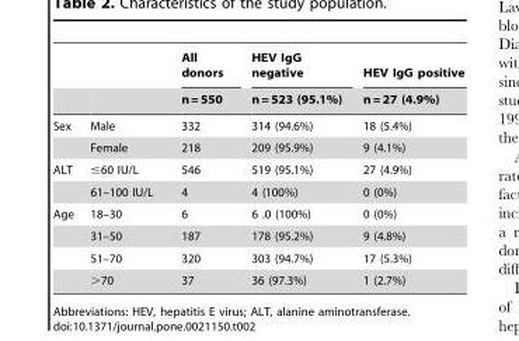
<table><thead><tr><td rowspan="2"></td><td rowspan="2"></td><td rowspan="2">All donors n = 550</td><td rowspan="2">HEV IgG negative n = 523 (95.1%)</td><td rowspan="2">HEV IgG positive n = 27 (4.9%)</td></tr><tr></tr></thead><tbody><tr><td rowspan="2">Sex</td><td>Male</td><td>332</td><td>314 (94.6%)</td><td>18 (5.4%)</td></tr><tr><td>Female</td><td>218</td><td>209 (95.9%)</td><td>9 (4.1%)</td></tr><tr><td rowspan="2">ALT</td><td>≤60 IU/L</td><td>546</td><td>519 (95.1%)</td><td>27 (4.9%)</td></tr><tr><td>61–100 IU/L</td><td>4</td><td>4 (100%)</td><td>0 (0%)</td></tr><tr><td rowspan="4">Age</td><td>18–30</td><td>6</td><td>6 .0 (100%)</td><td>0 (0%)</td></tr><tr><td>31–50</td><td>187</td><td>178 (95.2%)</td><td>9 (4.8%)</td></tr><tr><td>51–70</td><td>320</td><td>303 (94.7%)</td><td>17 (5.3%)</td></tr><tr><td>&gt;70</td><td>37</td><td>36 (97.3%)</td><td>1 (2.7%)</td></tr></tbody></table>